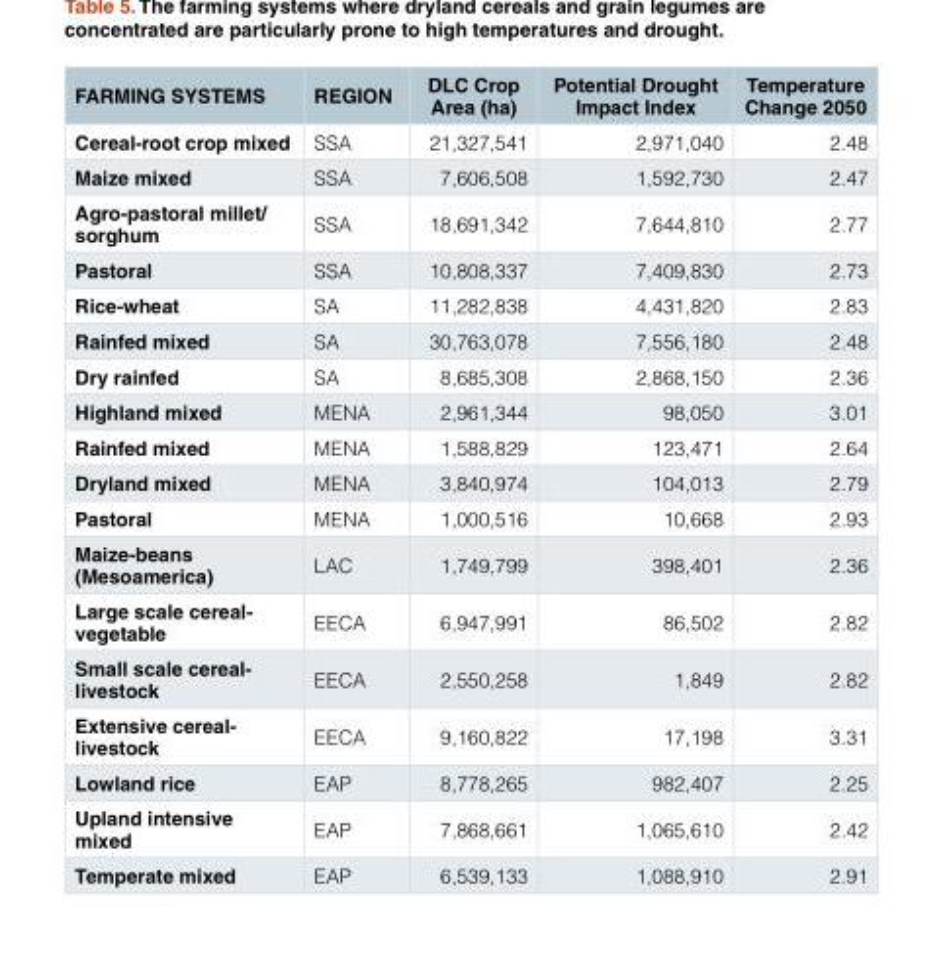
<table><thead><tr><td>FARMING SYSTEMS</td><td>REGION</td><td>DLC Crop Area (ha)</td><td>Potential Drought Impact Index</td><td>Temperature Change 2050</td></tr></thead><tbody><tr><td>Cereal-root crop mixed</td><td>SSA</td><td>21,327,541</td><td>2,971,040</td><td>2.48</td></tr><tr><td>Maize mixed</td><td>SSA</td><td>7,606,508</td><td>1,592,730</td><td>2.47</td></tr><tr><td>Agro-pastoral millet/ sorghum</td><td>SSA</td><td>18,691,342</td><td>7,644,810</td><td>2.77</td></tr><tr><td>Pastoral</td><td>SSA</td><td>10,808,337</td><td>7,409,830</td><td>2.73</td></tr><tr><td>Rice-wheat</td><td>SA</td><td>11,282,838</td><td>4,431,820</td><td>2.83</td></tr><tr><td>Rainfed mixed</td><td>SA</td><td>30,763,078</td><td>7,556,180</td><td>2.48</td></tr><tr><td>Dry rainfed</td><td>SA</td><td>8,685,308</td><td>2,868,150</td><td>2.36</td></tr><tr><td>Highland mixed</td><td>MENA</td><td>2,961,344</td><td>98,050</td><td>3.01</td></tr><tr><td>Rainfed mixed</td><td>MENA</td><td>1,588,829</td><td>123,471</td><td>2.64</td></tr><tr><td>Dryland mixed</td><td>MENA</td><td>3,840,974</td><td>104,013</td><td>2.79</td></tr><tr><td>Pastoral</td><td>MENA</td><td>1,000,516</td><td>10,668</td><td>2.93</td></tr><tr><td>Maize-beans (Mesoamerica)</td><td>LAC</td><td>1,749,799</td><td>398,401</td><td>2.36</td></tr><tr><td>Large scale cereal- vegetable</td><td>EECA</td><td>6,947,991</td><td>86,502</td><td>2.82</td></tr><tr><td>Small scale cereal- livestock</td><td>EECA</td><td>2,550,258</td><td>1,849</td><td>2.82</td></tr><tr><td>Extensive cereal- livestock</td><td>EECA</td><td>9,160,822</td><td>17,198</td><td>3.31</td></tr><tr><td>Lowland rice</td><td>EAP</td><td>8,778,265</td><td>982,407</td><td>2.25</td></tr><tr><td>Upland intensive mixed</td><td>EAP</td><td>7,868,661</td><td>1,065,610</td><td>2.42</td></tr><tr><td>Temperate mixed</td><td>EAP</td><td>6,539,133</td><td>1,088,910</td><td>2.91</td></tr></tbody></table>